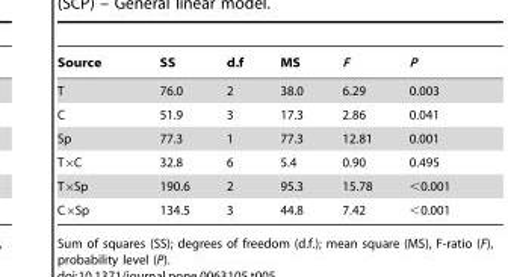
<table><thead><tr><td>Source</td><td>SS</td><td>d.f</td><td>MS</td><td>F</td><td>P</td></tr></thead><tbody><tr><td>T</td><td>76.0</td><td>2</td><td>38.0</td><td>6.29</td><td>0.003</td></tr><tr><td>C</td><td>51.9</td><td>3</td><td>17.3</td><td>2.86</td><td>0.041</td></tr><tr><td>Sp</td><td>77.3</td><td>1</td><td>77.3</td><td>12.81</td><td>0.001</td></tr><tr><td>T×C</td><td>32.8</td><td>6</td><td>5.4</td><td>0.90</td><td>0.495</td></tr><tr><td>T×Sp</td><td>190.6</td><td>2</td><td>95.3</td><td>15.78</td><td>&lt;0.001</td></tr><tr><td>C×Sp</td><td>134.5</td><td>3</td><td>44.8</td><td>7.42</td><td>&lt;0.001</td></tr></tbody></table>